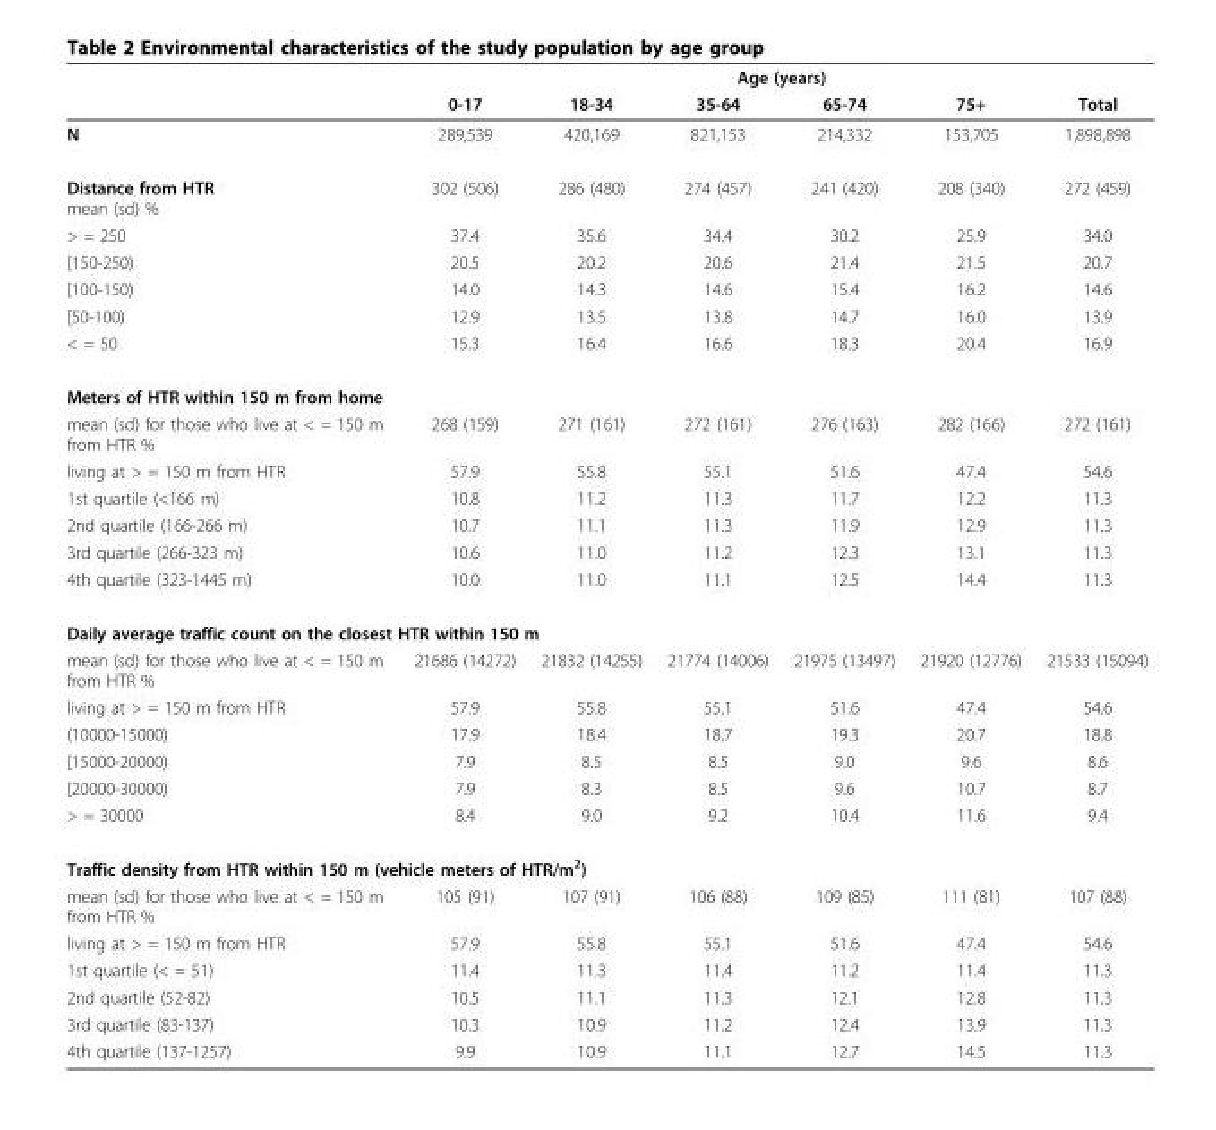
<table><thead><tr><td rowspan="2"></td><td colspan="6">Age (years)</td></tr><tr><td>0-17</td><td>18-34</td><td>35-64</td><td>65-74</td><td>75+</td><td>Total</td></tr></thead><tbody><tr><td>N</td><td>289,539</td><td>420,169</td><td>821,153</td><td>214,332</td><td>153,705</td><td>1,898,898</td></tr><tr><td>Distance from HTR mean (sd) %</td><td>302 (506)</td><td>286 (480)</td><td>274 (457)</td><td>241 (420)</td><td>208 (340)</td><td>272 (459)</td></tr><tr><td>&gt; = 250</td><td>37.4</td><td>35.6</td><td>34.4</td><td>30.2</td><td>25.9</td><td>34.0</td></tr><tr><td>[150-250)</td><td>20.5</td><td>20.2</td><td>20.6</td><td>21.4</td><td>21.5</td><td>20.7</td></tr><tr><td>[100-150)</td><td>14.0</td><td>14.3</td><td>14.6</td><td>15.4</td><td>16.2</td><td>14.6</td></tr><tr><td>[50-100)</td><td>12.9</td><td>13.5</td><td>13.8</td><td>14.7</td><td>16.0</td><td>13.9</td></tr><tr><td>&lt; = 50</td><td>15.3</td><td>16.4</td><td>16.6</td><td>18.3</td><td>20.4</td><td>16.9</td></tr><tr><td colspan="7">Meters of HTR within 150 m from home</td></tr><tr><td>mean (sd) for those who live at &lt; = 150 m from HTR %</td><td>268 (159)</td><td>271 (161)</td><td>272 (161)</td><td>276 (163)</td><td>282 (166)</td><td>272 (161)</td></tr><tr><td>living at &gt; = 150 m from HTR</td><td>57.9</td><td>55.8</td><td>55.1</td><td>51.6</td><td>47.4</td><td>54.6</td></tr><tr><td>1st quartile (&lt;166 m)</td><td>10.8</td><td>11.2</td><td>11.3</td><td>11.7</td><td>12.2</td><td>11.3</td></tr><tr><td>2nd quartile (166-266 m)</td><td>10.7</td><td>11.1</td><td>11.3</td><td>11.9</td><td>12.9</td><td>11.3</td></tr><tr><td>3rd quartile (266-323 m)</td><td>10.6</td><td>11.0</td><td>11.2</td><td>12.3</td><td>13.1</td><td>11.3</td></tr><tr><td>4th quartile (323-1445 m)</td><td>10.0</td><td>11.0</td><td>11.1</td><td>12.5</td><td>14.4</td><td>11.3</td></tr><tr><td colspan="7">Daily average traffic count on the closest HTR within 150 m</td></tr><tr><td>mean (sd) for those who live at &lt; = 150 m from HTR %</td><td>21686 (14272)</td><td>21832 (14255)</td><td>21774 (14006)</td><td>21975 (13497)</td><td>21920 (12776)</td><td>21533 (15094)</td></tr><tr><td>living at &gt; = 150 m from HTR</td><td>57.9</td><td>55.8</td><td>55.1</td><td>51.6</td><td>47.4</td><td>54.6</td></tr><tr><td>(10000-15000)</td><td>17.9</td><td>18.4</td><td>18.7</td><td>19.3</td><td>20.7</td><td>18.8</td></tr><tr><td>[15000-20000)</td><td>7.9</td><td>8.5</td><td>8.5</td><td>9.0</td><td>9.6</td><td>8.6</td></tr><tr><td>[20000-30000)</td><td>7.9</td><td>8.3</td><td>8.5</td><td>9.6</td><td>10.7</td><td>8.7</td></tr><tr><td>&gt; = 30000</td><td>8.4</td><td>9.0</td><td>9.2</td><td>10.4</td><td>11.6</td><td>9.4</td></tr><tr><td colspan="7">Traffic density from HTR within 150 m (vehicle meters of HTR/m<sup>2</sup>)</td></tr><tr><td>mean (sd) for those who live at &lt; = 150 m from HTR %</td><td>105 (91)</td><td>107 (91)</td><td>106 (88)</td><td>109 (85)</td><td>111 (81)</td><td>107 (88)</td></tr><tr><td>living at &gt; = 150 m from HTR</td><td>57.9</td><td>55.8</td><td>55.1</td><td>51.6</td><td>47.4</td><td>54.6</td></tr><tr><td>1st quartile (&lt; = 51)</td><td>11.4</td><td>11.3</td><td>11.4</td><td>11.2</td><td>11.4</td><td>11.3</td></tr><tr><td>2nd quartile (52-82)</td><td>10.5</td><td>11.1</td><td>11.3</td><td>12.1</td><td>12.8</td><td>11.3</td></tr><tr><td>3rd quartile (83-137)</td><td>10.3</td><td>10.9</td><td>11.2</td><td>12.4</td><td>13.9</td><td>11.3</td></tr><tr><td>4th quartile (137-1257)</td><td>9.9</td><td>10.9</td><td>11.1</td><td>12.7</td><td>14.5</td><td>11.3</td></tr></tbody></table>